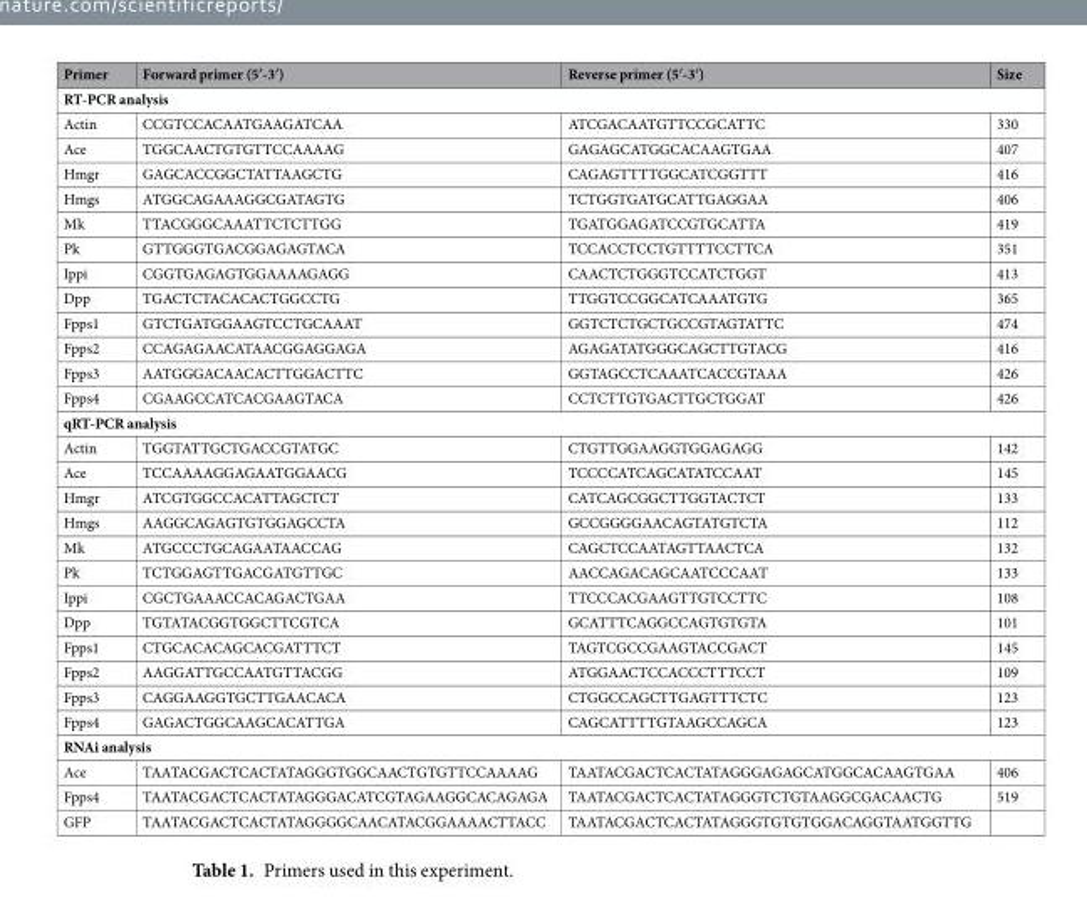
<table><thead><tr><td>Primer</td><td>Forward primer (5′-3′)</td><td>Reverse primer (5′-3′)</td><td>Size</td></tr></thead><tbody><tr><td colspan="4">RT-PCR analysis</td></tr><tr><td>Actin</td><td>CCGTCCACAATGAAGATCAA</td><td>ATCGACAATGTTCCGCATTC</td><td>330</td></tr><tr><td>Ace</td><td>TGGCAACTGTGTTCCAAAAG</td><td>GAGAGCATGGCACAAGTGAA</td><td>407</td></tr><tr><td>Hmgr</td><td>GAGCACCGGCTATTAAGCTG</td><td>CAGAGTTTTGGCATCGGTTT</td><td>416</td></tr><tr><td>Hmgs</td><td>ATGGCAGAAAGGCGATAGTG</td><td>TCTGGTGATGCATTGAGGAA</td><td>406</td></tr><tr><td>Mk</td><td>TTACGGGCAAATTCTCTTGG</td><td>TGATGGAGATCCGTGCATTA</td><td>419</td></tr><tr><td>Pk</td><td>GTTGGGTGACGGAGAGTACA</td><td>TCCACCTCCTGTTTTCCTTCA</td><td>351</td></tr><tr><td>Ippi</td><td>CGGTGAGAGTGGAAAAGAGG</td><td>CAACTCTGGGTCCATCTGGT</td><td>413</td></tr><tr><td>Dpp</td><td>TGACTCTACACACTGGCCTG</td><td>TTGGTCCGGCATCAAATGTG</td><td>365</td></tr><tr><td>Fpps1</td><td>GTCTGATGGAAGTCCTGCAAAT</td><td>GGTCTCTGCTGCCGTAGTATTC</td><td>474</td></tr><tr><td>Fpps2</td><td>CCAGAGAACATAACGGAGGAGA</td><td>AGAGATATGGGCAGCTTGTACG</td><td>416</td></tr><tr><td>Fpps3</td><td>AATGGGACAACACTTGGACTTC</td><td>GGTAGCCTCAAATCACCGTAAA</td><td>426</td></tr><tr><td>Fpps4</td><td>CGAAGCCATCACGAAGTACA</td><td>CCTCTTGTGACTTGCTGGAT</td><td>426</td></tr><tr><td colspan="4">qRT-PCR analysis</td></tr><tr><td>Actin</td><td>TGGTATTGCTGACCGTATGC</td><td>CTGTTGGAAGGTGGAGAGG</td><td>142</td></tr><tr><td>Ace</td><td>TCCAAAAGGAGAATGGAACG</td><td>TCCCCATCAGCATATCCAAT</td><td>145</td></tr><tr><td>Hmgr</td><td>ATCGTGGCCACATTAGCTCT</td><td>CATCAGCGGCTTGGTACTCT</td><td>133</td></tr><tr><td>Hmgs</td><td>AAGGCAGAGTGTGGAGCCTA</td><td>GCCGGGGAACAGTATGTCTA</td><td>112</td></tr><tr><td>Mk</td><td>ATGCCCTGCAGAATAACCAG</td><td>CAGCTCCAATAGTTAACTCA</td><td>132</td></tr><tr><td>Pk</td><td>TCTGGAGTTGACGATGTTGC</td><td>AACCAGACAGCAATCCCAAT</td><td>133</td></tr><tr><td>Ippi</td><td>CGCTGAAACCACAGACTGAA</td><td>TTCCCACGAAGTTGTCCTTC</td><td>108</td></tr><tr><td>Dpp</td><td>TGTATACGGTGGCTTCGTCA</td><td>GCATTTCAGGCCAGTGTGTA</td><td>101</td></tr><tr><td>Fpps1</td><td>CTGCACACAGCACGATTTCT</td><td>TAGTCGCCGAAGTACCGACT</td><td>145</td></tr><tr><td>Fpps2</td><td>AAGGATTGCCAATGTTACGG</td><td>ATGGAACTCCACCCTTTCCT</td><td>109</td></tr><tr><td>Fpps3</td><td>CAGGAAGGTGCTTGAACACA</td><td>CTGGCCAGCTTGAGTTTCTC</td><td>123</td></tr><tr><td>Fpps4</td><td>GAGACTGGCAAGCACATTGA</td><td>CAGCATTTTGTAAGCCAGCA</td><td>123</td></tr><tr><td colspan="4">RNAi analysis</td></tr><tr><td>Ace</td><td>TAATACGACTCACTATAGGGTGGCAACTGTGTTCCAAAAG</td><td>TAATACGACTCACTATAGGGAGAGCATGGCACAAGTGAA</td><td>406</td></tr><tr><td>Fpps4</td><td>TAATACGACTCACTATAGGGACATCGTAGAAGGCACAGAGA</td><td>TAATACGACTCACTATAGGGTCTGTAAGGCGACAACTG</td><td>519</td></tr><tr><td>GFP</td><td>TAATACGACTCACTATAGGGGCAACATACGGAAAACTTACC</td><td>TAATACGACTCACTATAGGGTGTGTGGACAGGTAATGGTTG</td><td></td></tr></tbody></table>